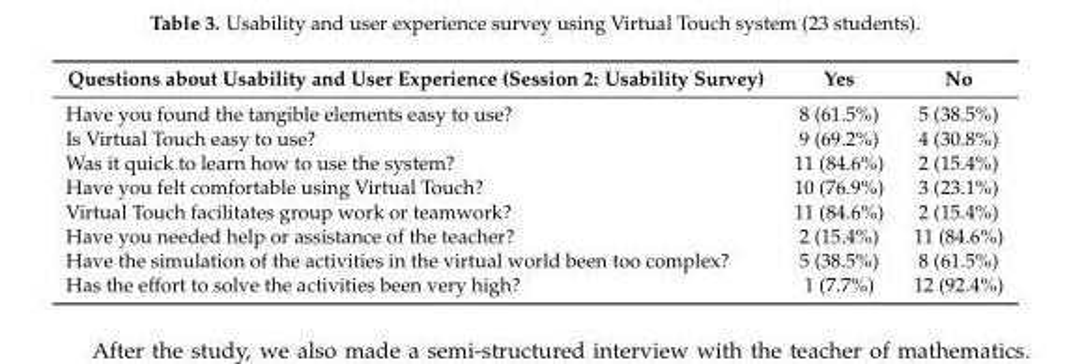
<table><thead><tr><td>Questions about Usability and User Experience (Session 2: Usability Survey)</td><td>Yes</td><td>No</td></tr></thead><tbody><tr><td>Have you found the tangible elements easy to use?</td><td>8 (61.5%)</td><td>5 (38.5%)</td></tr><tr><td>Is Virtual Touch easy to use?</td><td>9 (69.2%)</td><td>4 (30.8%)</td></tr><tr><td>Was it quick to learn how to use the system?</td><td>11 (84.6%)</td><td>2 (15.4%)</td></tr><tr><td>Have you felt comfortable using Virtual Touch?</td><td>10 (76.9%)</td><td>3 (23.1%)</td></tr><tr><td>Virtual Touch facilitates group work or teamwork?</td><td>11 (84.6%)</td><td>2 (15.4%)</td></tr><tr><td>Have you needed help or assistance of the teacher?</td><td>2 (15.4%)</td><td>11 (84.6%)</td></tr><tr><td>Have the simulation of the activities in the virtual world been too complex?</td><td>5 (38.5%)</td><td>8 (61.5%)</td></tr><tr><td>Has the effort to solve the activities been very high?</td><td>1 (7.7%)</td><td>12 (92.4%)</td></tr></tbody></table>